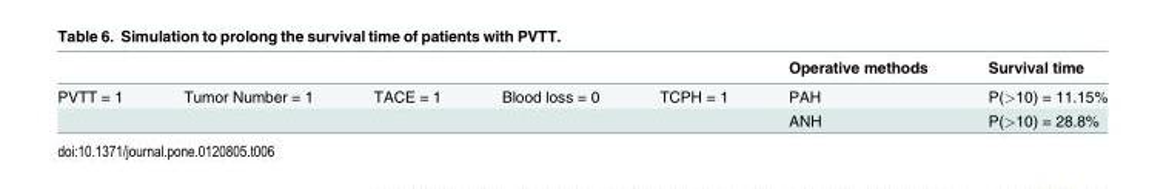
<table><thead><tr><td></td><td></td><td></td><td></td><td></td><td>Operative methods</td><td>Survival time</td></tr></thead><tbody><tr><td rowspan="2">PVTT = 1</td><td>Tumor Number = 1</td><td>TACE = 1</td><td>Blood loss = 0</td><td>TCPH = 1</td><td>PAH</td><td>P(&gt;10) = 11.15%</td></tr><tr><td></td><td></td><td></td><td></td><td>ANH</td><td>P(&gt;10) = 28.8%</td></tr></tbody></table>